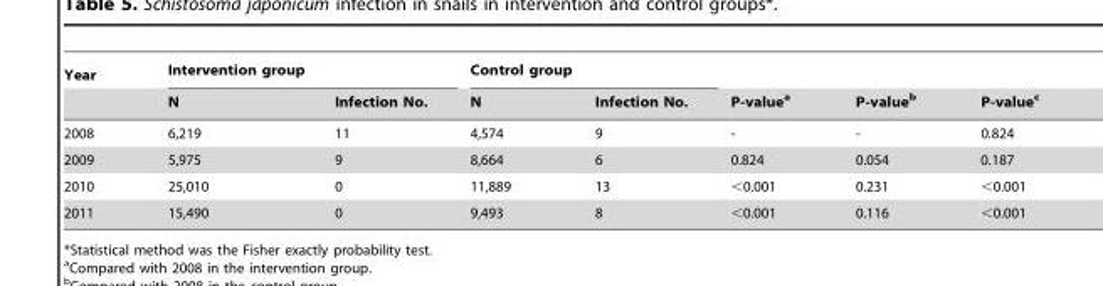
<table><thead><tr><td rowspan="2">Year</td><td colspan="2">Intervention group</td><td colspan="2">Control group</td><td rowspan="2">P-value<sup>a</sup></td><td rowspan="2">P-value<sup>b</sup></td><td rowspan="2">P-value<sup>c</sup></td></tr><tr><td>N</td><td>Infection No.</td><td>N</td><td>Infection No.</td></tr></thead><tbody><tr><td>2008</td><td>6,219</td><td>11</td><td>4,574</td><td>9</td><td>-</td><td>-</td><td>0.824</td></tr><tr><td>2009</td><td>5,975</td><td>9</td><td>8,664</td><td>6</td><td>0.824</td><td>0.054</td><td>0.187</td></tr><tr><td>2010</td><td>25,010</td><td>0</td><td>11,889</td><td>13</td><td>&lt;0.001</td><td>0.231</td><td>&lt;0.001</td></tr><tr><td>2011</td><td>15,490</td><td>0</td><td>9,493</td><td>8</td><td>&lt;0.001</td><td>0.116</td><td>&lt;0.001</td></tr></tbody></table>